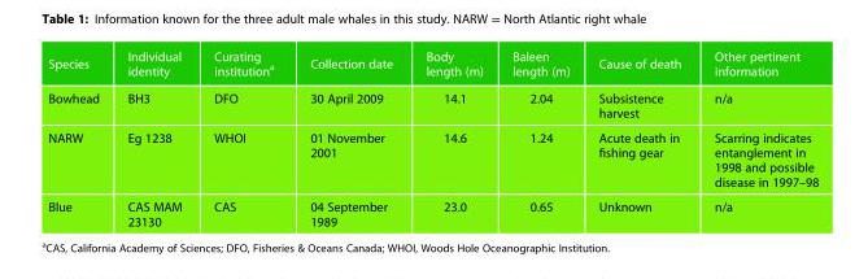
<table><thead><tr><td>Species</td><td>Individual identity</td><td>Curating institution<sup>a</sup></td><td>Collection date</td><td>Body length (m)</td><td>Baleen length (m)</td><td>Cause of death</td><td>Other pertinent information</td></tr></thead><tbody><tr><td>Bowhead</td><td>BH3</td><td>DFO</td><td>30 April 2009</td><td>14.1</td><td>2.04</td><td>Subsistence harvest</td><td>n/a</td></tr><tr><td>NARW</td><td>Eg 1238</td><td>WHOI</td><td>01 November 2001</td><td>14.6</td><td>1.24</td><td>Acute death in fishing gear</td><td>Scarring indicates entanglement in 1998 and possible disease in 1997–98</td></tr><tr><td>Blue</td><td>CAS MAM 23130</td><td>CAS</td><td>04 September 1989</td><td>23.0</td><td>0.65</td><td>Unknown</td><td>n/a</td></tr></tbody></table>